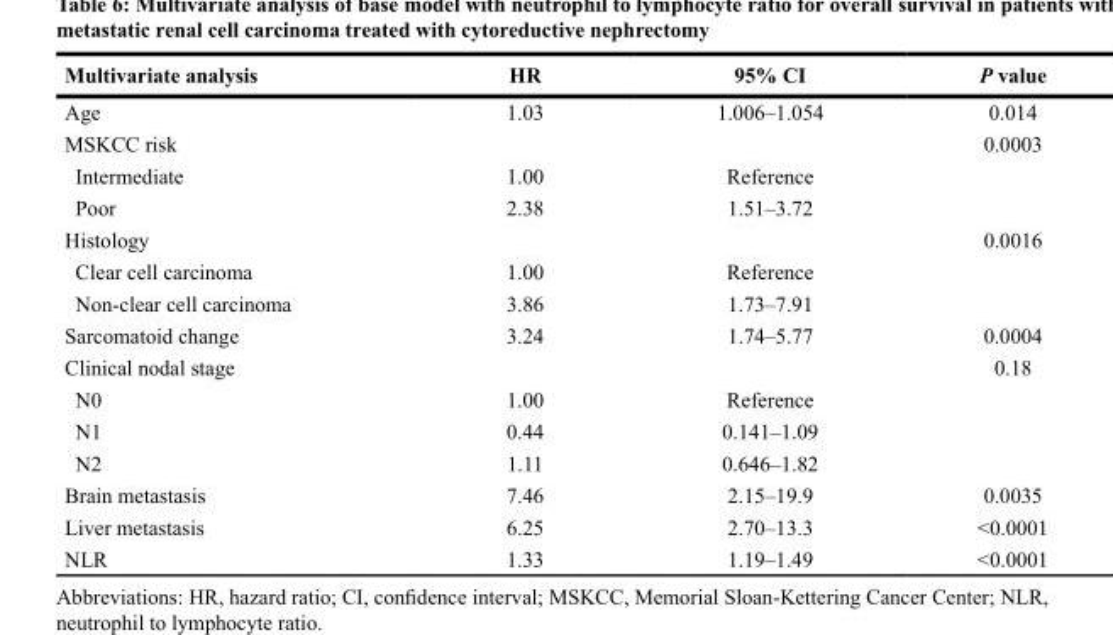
<table><thead><tr><td>Multivariate analysis</td><td>HR</td><td>95% CI</td><td>P value</td></tr></thead><tbody><tr><td>Age</td><td>1.03</td><td>1.006–1.054</td><td>0.014</td></tr><tr><td>MSKCC risk</td><td></td><td></td><td>0.0003</td></tr><tr><td>Intermediate</td><td>1.00</td><td>Reference</td><td></td></tr><tr><td>Poor</td><td>2.38</td><td>1.51–3.72</td><td></td></tr><tr><td>Histology</td><td></td><td></td><td>0.0016</td></tr><tr><td>Clear cell carcinoma</td><td>1.00</td><td>Reference</td><td></td></tr><tr><td>Non-clear cell carcinoma</td><td>3.86</td><td>1.73–7.91</td><td></td></tr><tr><td>Sarcomatoid change</td><td>3.24</td><td>1.74–5.77</td><td>0.0004</td></tr><tr><td>Clinical nodal stage</td><td></td><td></td><td>0.18</td></tr><tr><td>N0</td><td>1.00</td><td>Reference</td><td></td></tr><tr><td>N1</td><td>0.44</td><td>0.141–1.09</td><td></td></tr><tr><td>N2</td><td>1.11</td><td>0.646–1.82</td><td></td></tr><tr><td>Brain metastasis</td><td>7.46</td><td>2.15–19.9</td><td>0.0035</td></tr><tr><td>Liver metastasis</td><td>6.25</td><td>2.70–13.3</td><td>&lt;0.0001</td></tr><tr><td>NLR</td><td>1.33</td><td>1.19–1.49</td><td>&lt;0.0001</td></tr></tbody></table>